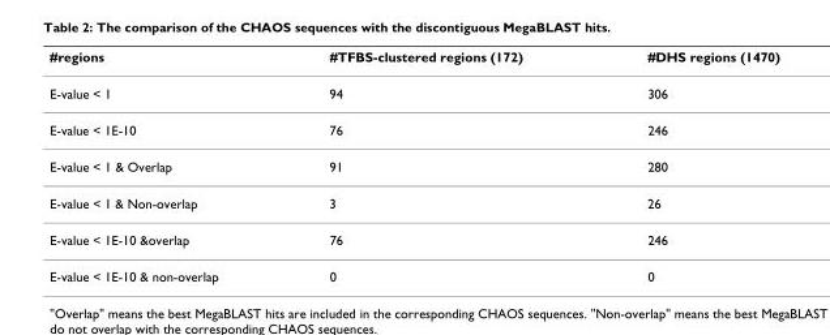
<table><thead><tr><td>#regions</td><td>#TFBS-clustered regions (172)</td><td>#DHS regions (1470)</td></tr></thead><tbody><tr><td>E-value &lt; 1</td><td>94</td><td>306</td></tr><tr><td>E-value &lt; 1E-10</td><td>76</td><td>246</td></tr><tr><td>E-value &lt; 1 &amp; Overlap</td><td>91</td><td>280</td></tr><tr><td>E-value &lt; 1 &amp; Non-overlap</td><td>3</td><td>26</td></tr><tr><td>E-value &lt; 1E-10 &amp;overlap</td><td>76</td><td>246</td></tr><tr><td>E-value &lt; 1E-10 &amp; non-overlap</td><td>0</td><td>0</td></tr></tbody></table>